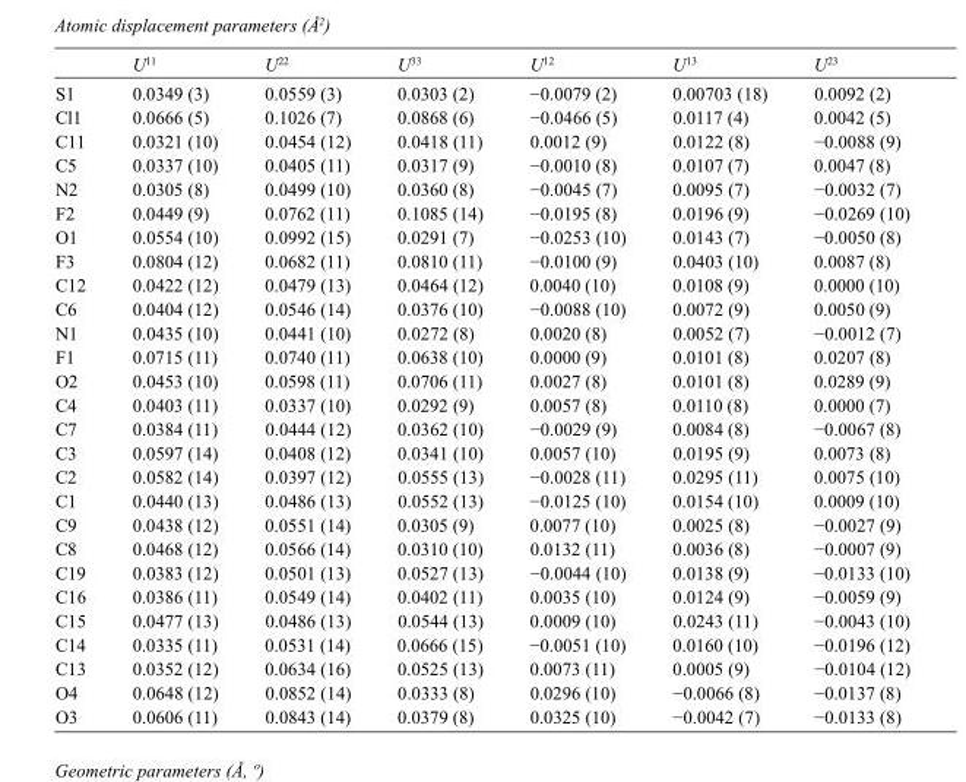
<table><thead><tr><td></td><td>U<sup>11</sup></td><td>U<sup>22</sup></td><td>U<sup>33</sup></td><td>U<sup>12</sup></td><td>U<sup>13</sup></td><td>U<sup>23</sup></td></tr></thead><tbody><tr><td>S1</td><td>0.0349 (3)</td><td>0.0559 (3)</td><td>0.0303 (2)</td><td>−0.0079 (2)</td><td>0.00703 (18)</td><td>0.0092 (2)</td></tr><tr><td>Cl1</td><td>0.0666 (5)</td><td>0.1026 (7)</td><td>0.0868 (6)</td><td>−0.0466 (5)</td><td>0.0117 (4)</td><td>0.0042 (5)</td></tr><tr><td>C11</td><td>0.0321 (10)</td><td>0.0454 (12)</td><td>0.0418 (11)</td><td>0.0012 (9)</td><td>0.0122 (8)</td><td>−0.0088 (9)</td></tr><tr><td>C5</td><td>0.0337 (10)</td><td>0.0405 (11)</td><td>0.0317 (9)</td><td>−0.0010 (8)</td><td>0.0107 (7)</td><td>0.0047 (8)</td></tr><tr><td>N2</td><td>0.0305 (8)</td><td>0.0499 (10)</td><td>0.0360 (8)</td><td>−0.0045 (7)</td><td>0.0095 (7)</td><td>−0.0032 (7)</td></tr><tr><td>F2</td><td>0.0449 (9)</td><td>0.0762 (11)</td><td>0.1085 (14)</td><td>−0.0195 (8)</td><td>0.0196 (9)</td><td>−0.0269 (10)</td></tr><tr><td>O1</td><td>0.0554 (10)</td><td>0.0992 (15)</td><td>0.0291 (7)</td><td>−0.0253 (10)</td><td>0.0143 (7)</td><td>−0.0050 (8)</td></tr><tr><td>F3</td><td>0.0804 (12)</td><td>0.0682 (11)</td><td>0.0810 (11)</td><td>−0.0100 (9)</td><td>0.0403 (10)</td><td>0.0087 (8)</td></tr><tr><td>C12</td><td>0.0422 (12)</td><td>0.0479 (13)</td><td>0.0464 (12)</td><td>0.0040 (10)</td><td>0.0108 (9)</td><td>0.0000 (10)</td></tr><tr><td>C6</td><td>0.0404 (12)</td><td>0.0546 (14)</td><td>0.0376 (10)</td><td>−0.0088 (10)</td><td>0.0072 (9)</td><td>0.0050 (9)</td></tr><tr><td>N1</td><td>0.0435 (10)</td><td>0.0441 (10)</td><td>0.0272 (8)</td><td>0.0020 (8)</td><td>0.0052 (7)</td><td>−0.0012 (7)</td></tr><tr><td>F1</td><td>0.0715 (11)</td><td>0.0740 (11)</td><td>0.0638 (10)</td><td>0.0000 (9)</td><td>0.0101 (8)</td><td>0.0207 (8)</td></tr><tr><td>O2</td><td>0.0453 (10)</td><td>0.0598 (11)</td><td>0.0706 (11)</td><td>0.0027 (8)</td><td>0.0101 (8)</td><td>0.0289 (9)</td></tr><tr><td>C4</td><td>0.0403 (11)</td><td>0.0337 (10)</td><td>0.0292 (9)</td><td>0.0057 (8)</td><td>0.0110 (8)</td><td>0.0000 (7)</td></tr><tr><td>C7</td><td>0.0384 (11)</td><td>0.0444 (12)</td><td>0.0362 (10)</td><td>−0.0029 (9)</td><td>0.0084 (8)</td><td>−0.0067 (8)</td></tr><tr><td>C3</td><td>0.0597 (14)</td><td>0.0408 (12)</td><td>0.0341 (10)</td><td>0.0057 (10)</td><td>0.0195 (9)</td><td>0.0073 (8)</td></tr><tr><td>C2</td><td>0.0582 (14)</td><td>0.0397 (12)</td><td>0.0555 (13)</td><td>−0.0028 (11)</td><td>0.0295 (11)</td><td>0.0075 (10)</td></tr><tr><td>C1</td><td>0.0440 (13)</td><td>0.0486 (13)</td><td>0.0552 (13)</td><td>−0.0125 (10)</td><td>0.0154 (10)</td><td>0.0009 (10)</td></tr><tr><td>C9</td><td>0.0438 (12)</td><td>0.0551 (14)</td><td>0.0305 (9)</td><td>0.0077 (10)</td><td>0.0025 (8)</td><td>−0.0027 (9)</td></tr><tr><td>C8</td><td>0.0468 (12)</td><td>0.0566 (14)</td><td>0.0310 (10)</td><td>0.0132 (11)</td><td>0.0036 (8)</td><td>−0.0007 (9)</td></tr><tr><td>C19</td><td>0.0383 (12)</td><td>0.0501 (13)</td><td>0.0527 (13)</td><td>−0.0044 (10)</td><td>0.0138 (9)</td><td>−0.0133 (10)</td></tr><tr><td>C16</td><td>0.0386 (11)</td><td>0.0549 (14)</td><td>0.0402 (11)</td><td>0.0035 (10)</td><td>0.0124 (9)</td><td>−0.0059 (9)</td></tr><tr><td>C15</td><td>0.0477 (13)</td><td>0.0486 (13)</td><td>0.0544 (13)</td><td>0.0009 (10)</td><td>0.0243 (11)</td><td>−0.0043 (10)</td></tr><tr><td>C14</td><td>0.0335 (11)</td><td>0.0531 (14)</td><td>0.0666 (15)</td><td>−0.0051 (10)</td><td>0.0160 (10)</td><td>−0.0196 (12)</td></tr><tr><td>C13</td><td>0.0352 (12)</td><td>0.0634 (16)</td><td>0.0525 (13)</td><td>0.0073 (11)</td><td>0.0005 (9)</td><td>−0.0104 (12)</td></tr><tr><td>O4</td><td>0.0648 (12)</td><td>0.0852 (14)</td><td>0.0333 (8)</td><td>0.0296 (10)</td><td>−0.0066 (8)</td><td>−0.0137 (8)</td></tr><tr><td>O3</td><td>0.0606 (11)</td><td>0.0843 (14)</td><td>0.0379 (8)</td><td>0.0325 (10)</td><td>−0.0042 (7)</td><td>−0.0133 (8)</td></tr></tbody></table>